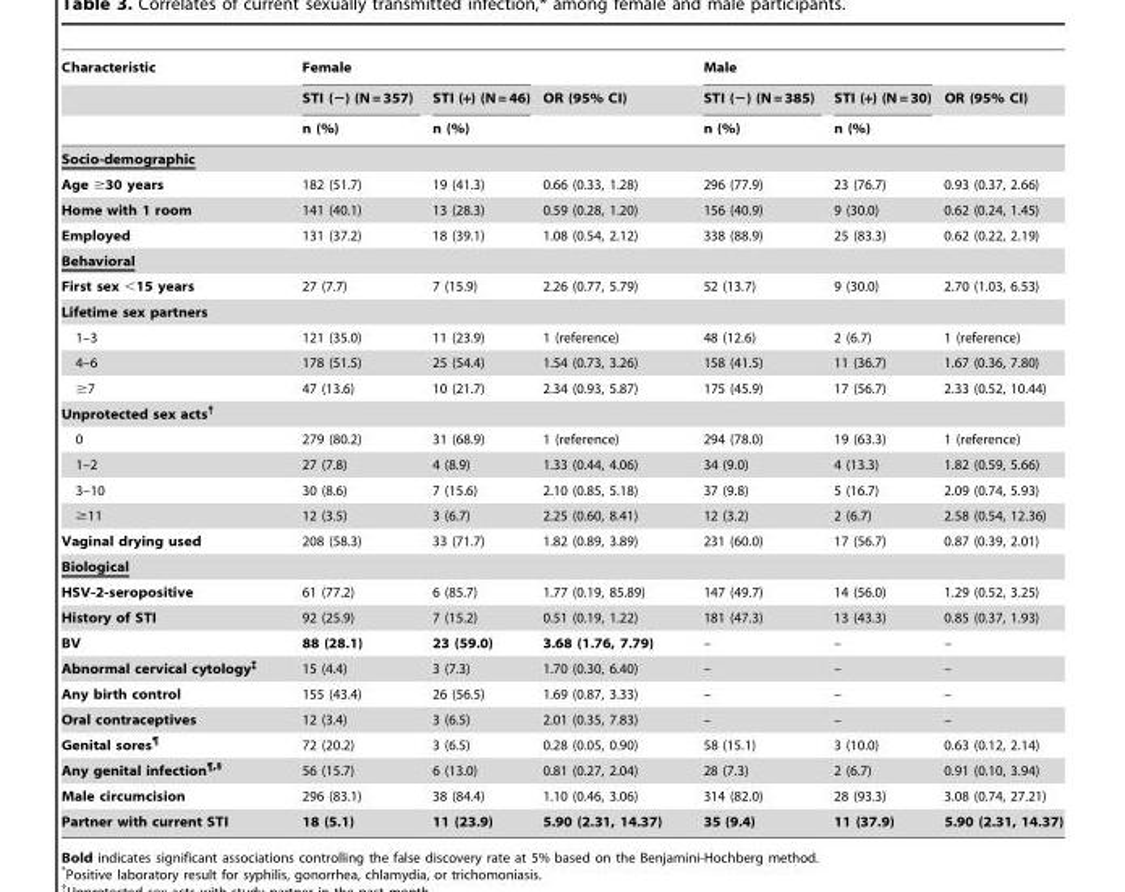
<table><thead><tr><td rowspan="3">Characteristic</td><td colspan="2">Female</td><td rowspan="3">OR (95% CI)</td><td colspan="2">Male</td><td rowspan="3">OR (95% CI)</td></tr><tr><td rowspan="2">STI (−) (N = 357) n (%)</td><td rowspan="2">STI (+) (N = 46) n (%)</td><td rowspan="2">STI (−) (N = 385) n (%)</td><td rowspan="2">STI (+) (N = 30) n (%)</td></tr><tr></tr></thead><tbody><tr><td colspan="7">Socio-demographic</td></tr><tr><td>Age ≥30 years</td><td>182 (51.7)</td><td>19 (41.3)</td><td>0.66 (0.33, 1.28)</td><td>296 (77.9)</td><td>23 (76.7)</td><td>0.93 (0.37, 2.66)</td></tr><tr><td>Home with 1 room</td><td>141 (40.1)</td><td>13 (28.3)</td><td>0.59 (0.28, 1.20)</td><td>156 (40.9)</td><td>9 (30.0)</td><td>0.62 (0.24, 1.45)</td></tr><tr><td>Employed</td><td>131 (37.2)</td><td>18 (39.1)</td><td>1.08 (0.54, 2.12)</td><td>338 (88.9)</td><td>25 (83.3)</td><td>0.62 (0.22, 2.19)</td></tr><tr><td colspan="7">Behavioral</td></tr><tr><td>First sex &lt;15 years</td><td>27 (7.7)</td><td>7 (15.9)</td><td>2.26 (0.77, 5.79)</td><td>52 (13.7)</td><td>9 (30.0)</td><td>2.70 (1.03, 6.53)</td></tr><tr><td colspan="7">Lifetime sex partners</td></tr><tr><td>1–3</td><td>121 (35.0)</td><td>11 (23.9)</td><td>1 (reference)</td><td>48 (12.6)</td><td>2 (6.7)</td><td>1 (reference)</td></tr><tr><td>4–6</td><td>178 (51.5)</td><td>25 (54.4)</td><td>1.54 (0.73, 3.26)</td><td>158 (41.5)</td><td>11 (36.7)</td><td>1.67 (0.36, 7.80)</td></tr><tr><td>≥7</td><td>47 (13.6)</td><td>10 (21.7)</td><td>2.34 (0.93, 5.87)</td><td>175 (45.9)</td><td>17 (56.7)</td><td>2.33 (0.52, 10.44)</td></tr><tr><td colspan="7">Unprotected sex acts†</td></tr><tr><td>0</td><td>279 (80.2)</td><td>31 (68.9)</td><td>1 (reference)</td><td>294 (78.0)</td><td>19 (63.3)</td><td>1 (reference)</td></tr><tr><td>1–2</td><td>27 (7.8)</td><td>4 (8.9)</td><td>1.33 (0.44, 4.06)</td><td>34 (9.0)</td><td>4 (13.3)</td><td>1.82 (0.59, 5.66)</td></tr><tr><td>3–10</td><td>30 (8.6)</td><td>7 (15.6)</td><td>2.10 (0.85, 5.18)</td><td>37 (9.8)</td><td>5 (16.7)</td><td>2.09 (0.74, 5.93)</td></tr><tr><td>≥11</td><td>12 (3.5)</td><td>3 (6.7)</td><td>2.25 (0.60, 8.41)</td><td>12 (3.2)</td><td>2 (6.7)</td><td>2.58 (0.54, 12.36)</td></tr><tr><td>Vaginal drying used</td><td>208 (58.3)</td><td>33 (71.7)</td><td>1.82 (0.89, 3.89)</td><td>231 (60.0)</td><td>17 (56.7)</td><td>0.87 (0.39, 2.01)</td></tr><tr><td colspan="7">Biological</td></tr><tr><td>HSV-2-seropositive</td><td>61 (77.2)</td><td>6 (85.7)</td><td>1.77 (0.19, 85.89)</td><td>147 (49.7)</td><td>14 (56.0)</td><td>1.29 (0.52, 3.25)</td></tr><tr><td>History of STI</td><td>92 (25.9)</td><td>7 (15.2)</td><td>0.51 (0.19, 1.22)</td><td>181 (47.3)</td><td>13 (43.3)</td><td>0.85 (0.37, 1.93)</td></tr><tr><td>BV</td><td>88 (28.1)</td><td>23 (59.0)</td><td>3.68 (1.76, 7.79)</td><td>–</td><td>–</td><td>–</td></tr><tr><td>Abnormal cervical cytology‡</td><td>15 (4.4)</td><td>3 (7.3)</td><td>1.70 (0.30, 6.40)</td><td>–</td><td>–</td><td>–</td></tr><tr><td>Any birth control</td><td>155 (43.4)</td><td>26 (56.5)</td><td>1.69 (0.87, 3.33)</td><td>–</td><td>–</td><td>–</td></tr><tr><td>Oral contraceptives</td><td>12 (3.4)</td><td>3 (6.5)</td><td>2.01 (0.35, 7.83)</td><td>–</td><td>–</td><td>–</td></tr><tr><td>Genital sores¶</td><td>72 (20.2)</td><td>3 (6.5)</td><td>0.28 (0.05, 0.90)</td><td>58 (15.1)</td><td>3 (10.0)</td><td>0.63 (0.12, 2.14)</td></tr><tr><td>Any genital infection¶,§</td><td>56 (15.7)</td><td>6 (13.0)</td><td>0.81 (0.27, 2.04)</td><td>28 (7.3)</td><td>2 (6.7)</td><td>0.91 (0.10, 3.94)</td></tr><tr><td>Male circumcision</td><td>296 (83.1)</td><td>38 (84.4)</td><td>1.10 (0.46, 3.06)</td><td>314 (82.0)</td><td>28 (93.3)</td><td>3.08 (0.74, 27.21)</td></tr><tr><td>Partner with current STI</td><td>18 (5.1)</td><td>11 (23.9)</td><td>5.90 (2.31, 14.37)</td><td>35 (9.4)</td><td>11 (37.9)</td><td>5.90 (2.31, 14.37)</td></tr></tbody></table>